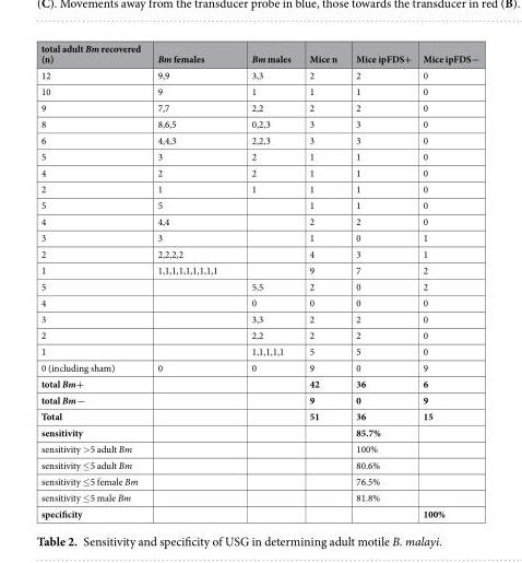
<table><thead><tr><td>total adult Bm recovered (n)</td><td>Bm females</td><td>Bm males</td><td>Mice n</td><td>Mice ipFDS+</td><td>Mice ipFDS−</td></tr></thead><tbody><tr><td>12</td><td>9,9</td><td>3,3</td><td>2</td><td>2</td><td>0</td></tr><tr><td>10</td><td>9</td><td>1</td><td>1</td><td>1</td><td>0</td></tr><tr><td>9</td><td>7,7</td><td>2,2</td><td>2</td><td>2</td><td>0</td></tr><tr><td>8</td><td>8,6,5</td><td>0,2,3</td><td>3</td><td>3</td><td>0</td></tr><tr><td>6</td><td>4,4,3</td><td>2,2,3</td><td>3</td><td>3</td><td>0</td></tr><tr><td>5</td><td>3</td><td>2</td><td>1</td><td>1</td><td>0</td></tr><tr><td>4</td><td>2</td><td>2</td><td>1</td><td>1</td><td>0</td></tr><tr><td>2</td><td>1</td><td>1</td><td>1</td><td>1</td><td>0</td></tr><tr><td>5</td><td>5</td><td></td><td>1</td><td>1</td><td>0</td></tr><tr><td>4</td><td>4,4</td><td></td><td>2</td><td>2</td><td>0</td></tr><tr><td>3</td><td>3</td><td></td><td>1</td><td>0</td><td>1</td></tr><tr><td>2</td><td>2,2,2,2</td><td></td><td>4</td><td>3</td><td>1</td></tr><tr><td>1</td><td>1,1,1,1,1,1,1,1,1</td><td></td><td>9</td><td>7</td><td>2</td></tr><tr><td>5</td><td></td><td>5,5</td><td>2</td><td>0</td><td>2</td></tr><tr><td>4</td><td></td><td>0</td><td>0</td><td>0</td><td>0</td></tr><tr><td>3</td><td></td><td>3,3</td><td>2</td><td>2</td><td>0</td></tr><tr><td>2</td><td></td><td>2,2</td><td>2</td><td>2</td><td>0</td></tr><tr><td>1</td><td></td><td>1,1,1,1,1</td><td>5</td><td>5</td><td>0</td></tr><tr><td>0 (including sham)</td><td>0</td><td>0</td><td>9</td><td>0</td><td>9</td></tr><tr><td>total Bm+</td><td></td><td></td><td>42</td><td>36</td><td>6</td></tr><tr><td>total Bm−</td><td></td><td></td><td>9</td><td>0</td><td>9</td></tr><tr><td>Total</td><td></td><td></td><td>51</td><td>36</td><td>15</td></tr><tr><td>sensitivity</td><td></td><td></td><td></td><td>85.7%</td><td></td></tr><tr><td>sensitivity &gt;5 adult Bm</td><td></td><td></td><td></td><td>100%</td><td></td></tr><tr><td>sensitivity ≤5 adult Bm</td><td></td><td></td><td></td><td>80.6%</td><td></td></tr><tr><td>sensitivity ≤5 female Bm</td><td></td><td></td><td></td><td>76.5%</td><td></td></tr><tr><td>sensitivity ≤5 male Bm</td><td></td><td></td><td></td><td>81.8%</td><td></td></tr><tr><td>specificity</td><td></td><td></td><td></td><td></td><td>100%</td></tr></tbody></table>